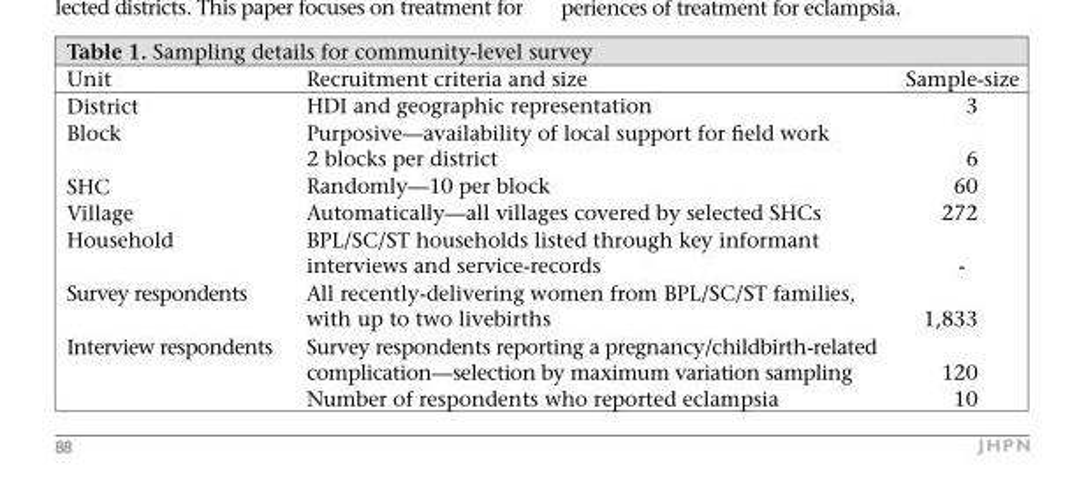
<table><thead><tr><td>Unit</td><td>Recruitment criteria and size</td><td>Sample-size</td></tr></thead><tbody><tr><td>District</td><td>HDI and geographic representation</td><td>3</td></tr><tr><td>Block</td><td>Purposive—availability of local support for field work 2 blocks per district</td><td>6</td></tr><tr><td>SHC</td><td>Randomly—10 per block</td><td>60</td></tr><tr><td>Village</td><td>Automatically—all villages covered by selected SHCs</td><td>272</td></tr><tr><td>Household</td><td>BPL/SC/ST households listed through key informant interviews and service-records</td><td>-</td></tr><tr><td>Survey respondents</td><td>All recently-delivering women from BPL/SC/ST families, with up to two livebirths</td><td>1,833</td></tr><tr><td rowspan="2">Interview respondents</td><td>Survey respondents reporting a pregnancy/childbirth-related complication—selection by maximum variation sampling</td><td>120</td></tr><tr><td>Number of respondents who reported eclampsia</td><td>10</td></tr></tbody></table>